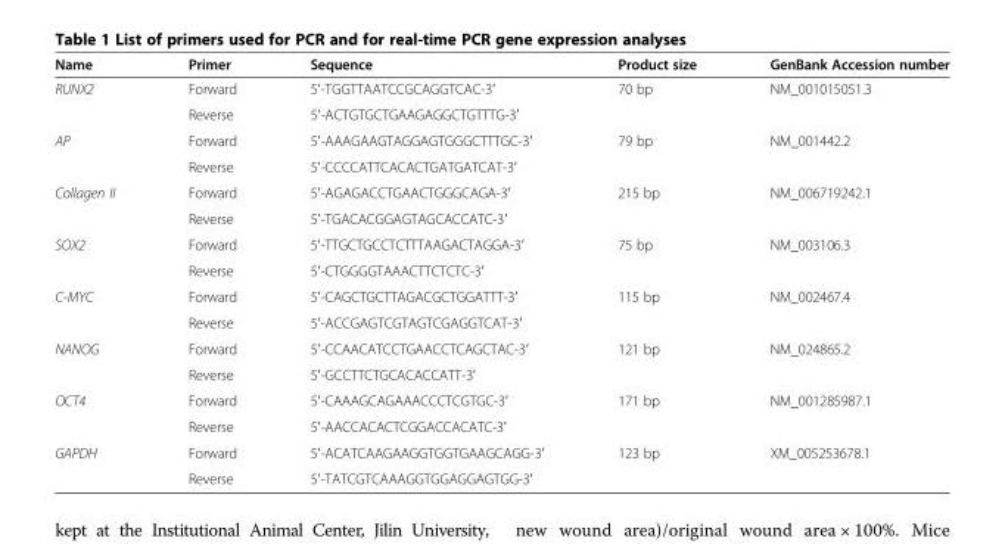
<table><thead><tr><td>Name</td><td>Primer</td><td>Sequence</td><td>Product size</td><td>GenBank Accession number</td></tr></thead><tbody><tr><td rowspan="2">RUNX2</td><td>Forward</td><td>5′-TGGTTAATCCGCAGGTCAC-3′</td><td>70 bp</td><td>NM_001015051.3</td></tr><tr><td>Reverse</td><td>5′-ACTGTGCTGAAGAGGCTGTTTG-3′</td><td></td><td></td></tr><tr><td rowspan="2">AP</td><td>Forward</td><td>5′-AAAGAAGTAGGAGTGGGCTTTGC-3′</td><td>79 bp</td><td>NM_001442.2</td></tr><tr><td>Reverse</td><td>5′-CCCCATTCACACTGATGATCAT-3′</td><td></td><td></td></tr><tr><td rowspan="2">Collagen II</td><td>Forward</td><td>5′-AGAGACCTGAACTGGGCAGA-3′</td><td>215 bp</td><td>NM_006719242.1</td></tr><tr><td>Reverse</td><td>5′-TGACACGGAGTAGCACCATC-3′</td><td></td><td></td></tr><tr><td rowspan="2">SOX2</td><td>Forward</td><td>5′-TTGCTGCCTCTTTAAGACTAGGA-3′</td><td>75 bp</td><td>NM_003106.3</td></tr><tr><td>Reverse</td><td>5′-CTGGGGTAAACTTCTCTC-3′</td><td></td><td></td></tr><tr><td rowspan="2">C-MYC</td><td>Forward</td><td>5′-CAGCTGCTTAGACGCTGGATTT-3′</td><td>115 bp</td><td>NM_002467.4</td></tr><tr><td>Reverse</td><td>5′-ACCGAGTCGTAGTCGAGGTCAT-3′</td><td></td><td></td></tr><tr><td rowspan="2">NANOG</td><td>Forward</td><td>5′-CCAACATCCTGAACCTCAGCTAC-3′</td><td>121 bp</td><td>NM_024865.2</td></tr><tr><td>Reverse</td><td>5′-GCCTTCTGCACACCATT-3′</td><td></td><td></td></tr><tr><td rowspan="2">OCT4</td><td>Forward</td><td>5′-CAAAGCAGAAACCCTCGTGC-3′</td><td>171 bp</td><td>NM_001285987.1</td></tr><tr><td>Reverse</td><td>5′-AACCACACTCGGACCACATC-3′</td><td></td><td></td></tr><tr><td rowspan="2">GAPDH</td><td>Forward</td><td>5′-ACATCAAGAAGGTGGTGAAGCAGG-3′</td><td>123 bp</td><td>XM_005253678.1</td></tr><tr><td>Reverse</td><td>5′-TATCGTCAAAGGTGGAGGAGTGG-3′</td><td></td><td></td></tr></tbody></table>